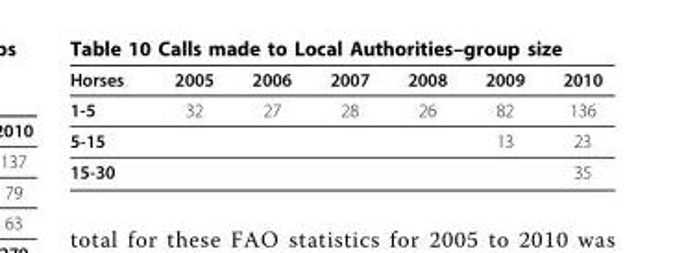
<table><thead><tr><td>Horses</td><td>2005</td><td>2006</td><td>2007</td><td>2008</td><td>2009</td><td>2010</td></tr></thead><tbody><tr><td>1-5</td><td>32</td><td>27</td><td>28</td><td>26</td><td>82</td><td>136</td></tr><tr><td>5-15</td><td></td><td></td><td></td><td></td><td>13</td><td>23</td></tr><tr><td>15-30</td><td></td><td></td><td></td><td></td><td></td><td>35</td></tr></tbody></table>